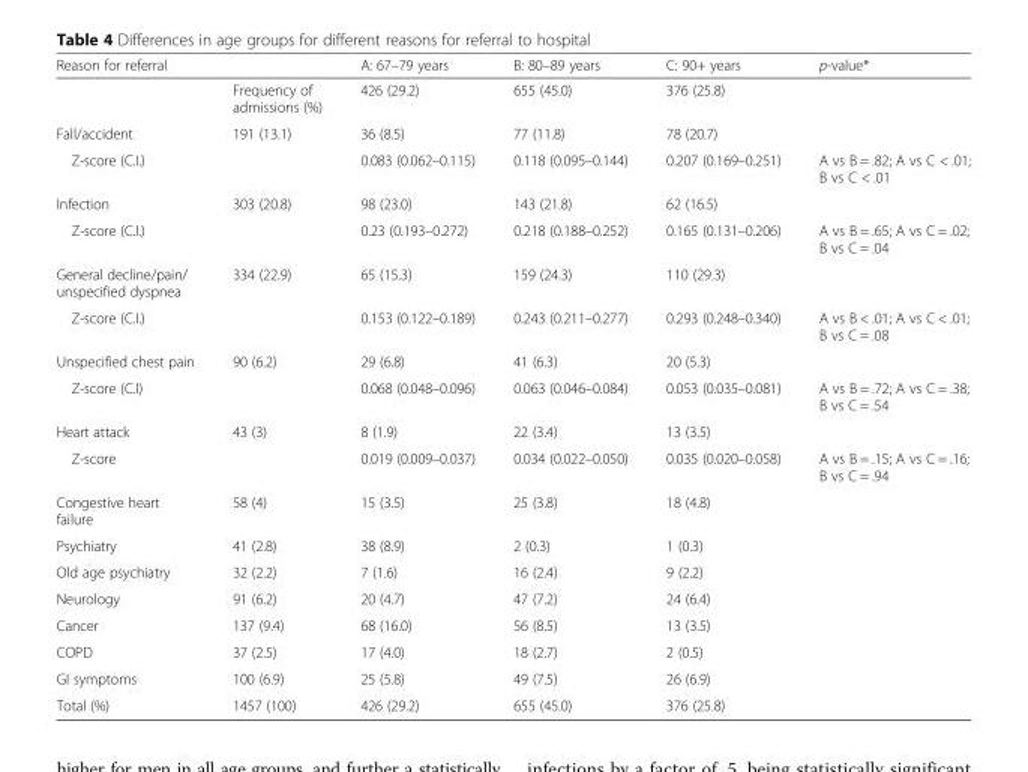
<table><thead><tr><td>Reason for referral</td><td></td><td>A: 67–79 years</td><td>B: 80–89 years</td><td>C: 90+ years</td><td>p-value*</td></tr></thead><tbody><tr><td></td><td>Frequency of admissions (%)</td><td>426 (29.2)</td><td>655 (45.0)</td><td>376 (25.8)</td><td></td></tr><tr><td>Fall/accident</td><td>191 (13.1)</td><td>36 (8.5)</td><td>77 (11.8)</td><td>78 (20.7)</td><td></td></tr><tr><td>Z-score (C.I.)</td><td></td><td>0.083 (0.062–0.115)</td><td>0.118 (0.095–0.144)</td><td>0.207 (0.169–0.251)</td><td>A vs B = .82; A vs C &lt; .01; B vs C &lt; .01</td></tr><tr><td>Infection</td><td>303 (20.8)</td><td>98 (23.0)</td><td>143 (21.8)</td><td>62 (16.5)</td><td></td></tr><tr><td>Z-score (C.I.)</td><td></td><td>0.23 (0.193–0.272)</td><td>0.218 (0.188–0.252)</td><td>0.165 (0.131–0.206)</td><td>A vs B = .65; A vs C = .02; B vs C = .04</td></tr><tr><td>General decline/pain/ unspecified dyspnea</td><td>334 (22.9)</td><td>65 (15.3)</td><td>159 (24.3)</td><td>110 (29.3)</td><td></td></tr><tr><td>Z-score (C.I.)</td><td></td><td>0.153 (0.122–0.189)</td><td>0.243 (0.211–0.277)</td><td>0.293 (0.248–0.340)</td><td>A vs B &lt; .01; A vs C &lt; .01; B vs C = .08</td></tr><tr><td>Unspecified chest pain</td><td>90 (6.2)</td><td>29 (6.8)</td><td>41 (6.3)</td><td>20 (5.3)</td><td></td></tr><tr><td>Z-score (C.I)</td><td></td><td>0.068 (0.048–0.096)</td><td>0.063 (0.046–0.084)</td><td>0.053 (0.035–0.081)</td><td>A vs B = .72; A vs C = .38; B vs C = .54</td></tr><tr><td>Heart attack</td><td>43 (3)</td><td>8 (1.9)</td><td>22 (3.4)</td><td>13 (3.5)</td><td></td></tr><tr><td>Z-score</td><td></td><td>0.019 (0.009–0.037)</td><td>0.034 (0.022–0.050)</td><td>0.035 (0.020–0.058)</td><td>A vs B = .15; A vs C = .16; B vs C = .94</td></tr><tr><td>Congestive heart failure</td><td>58 (4)</td><td>15 (3.5)</td><td>25 (3.8)</td><td>18 (4.8)</td><td></td></tr><tr><td>Psychiatry</td><td>41 (2.8)</td><td>38 (8.9)</td><td>2 (0.3)</td><td>1 (0.3)</td><td></td></tr><tr><td>Old age psychiatry</td><td>32 (2.2)</td><td>7 (1.6)</td><td>16 (2.4)</td><td>9 (2.2)</td><td></td></tr><tr><td>Neurology</td><td>91 (6.2)</td><td>20 (4.7)</td><td>47 (7.2)</td><td>24 (6.4)</td><td></td></tr><tr><td>Cancer</td><td>137 (9.4)</td><td>68 (16.0)</td><td>56 (8.5)</td><td>13 (3.5)</td><td></td></tr><tr><td>COPD</td><td>37 (2.5)</td><td>17 (4.0)</td><td>18 (2.7)</td><td>2 (0.5)</td><td></td></tr><tr><td>GI symptoms</td><td>100 (6.9)</td><td>25 (5.8)</td><td>49 (7.5)</td><td>26 (6.9)</td><td></td></tr><tr><td>Total (%)</td><td>1457 (100)</td><td>426 (29.2)</td><td>655 (45.0)</td><td>376 (25.8)</td><td></td></tr></tbody></table>